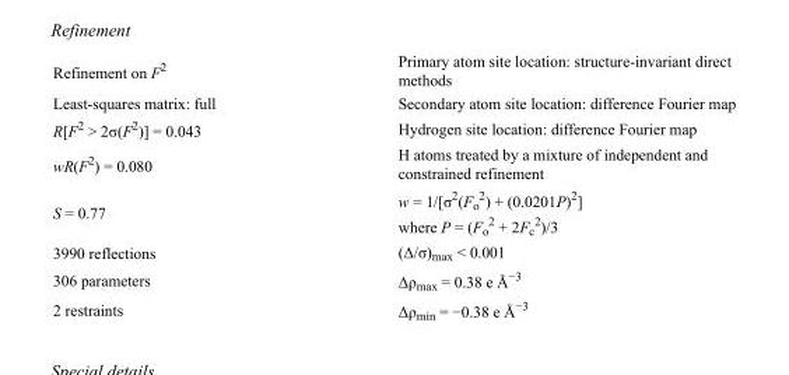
<table><tbody><tr><td>Refinement on F<sup>2</sup></td><td>Primary atom site location: structure-invariant direct methods</td></tr><tr><td>Least-squares matrix: full</td><td>Secondary atom site location: difference Fourier map</td></tr><tr><td>R[F<sup>2</sup> &gt; 2σ(F<sup>2</sup>)] = 0.043</td><td>Hydrogen site location: difference Fourier map</td></tr><tr><td>wR(F<sup>2</sup>) = 0.080</td><td>H atoms treated by a mixture of independent and constrained refinement</td></tr><tr><td>S = 0.77</td><td>w = 1/[σ<sup>2</sup>(F<sub>o</sub> <sup>2</sup>) + (0.0201P)<sup>2</sup>] where P = (F<sub>o</sub> <sup>2</sup> + 2F<sub>c</sub> <sup>2</sup>)/3</td></tr><tr><td>3990 reflections</td><td>(Δ/σ)<sub>max</sub> &lt; 0.001</td></tr><tr><td>306 parameters</td><td>Δρ<sub>max</sub> = 0.38 e Å<sup>−3</sup></td></tr><tr><td>2 restraints</td><td>Δρ<sub>min</sub> = −0.38 e Å<sup>−3</sup></td></tr></tbody></table>